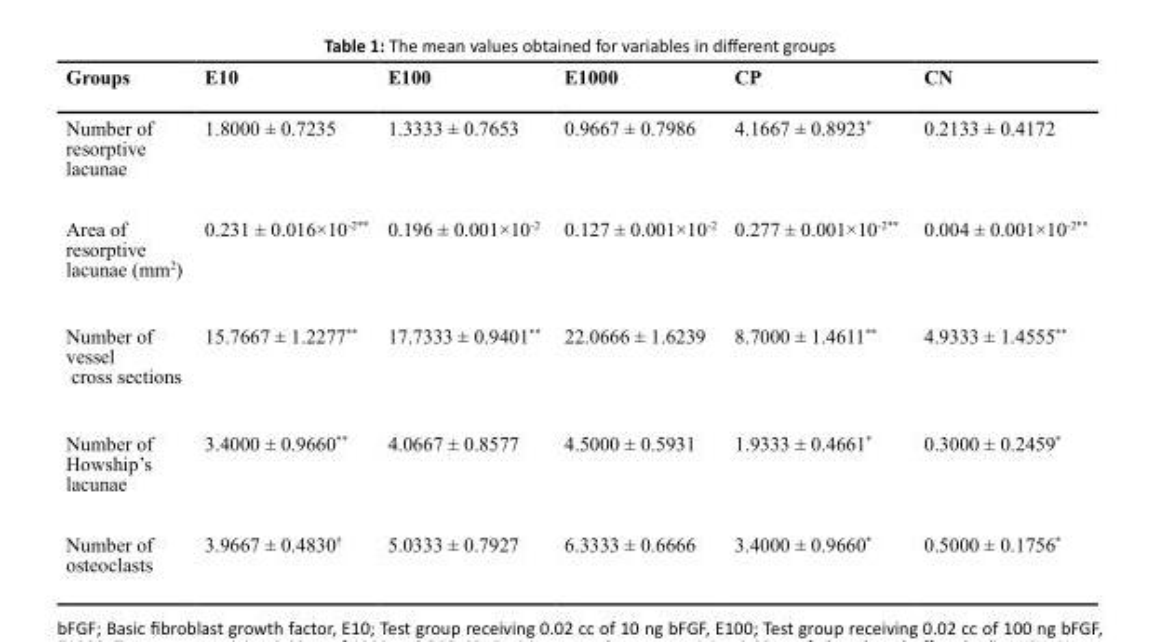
<table><thead><tr><td>Groups</td><td>E10</td><td>E100</td><td>E1000</td><td>CP</td><td>CN</td></tr></thead><tbody><tr><td>Number of resorptive lacunae</td><td>1.8000 ± 0.7235</td><td>1.3333 ± 0.7653</td><td>0.9667 ± 0.7986</td><td>4.1667 ± 0.8923*</td><td>0.2133 ± 0.4172</td></tr><tr><td>Area of resorptive lacunae (mm2)</td><td>0.231 ± 0.016×10<sup>-2**</sup></td><td>0.196 ± 0.001×10<sup>-2</sup></td><td>0.127 ± 0.001×10<sup>-2</sup></td><td>0.277 ± 0.001×10<sup>-2**</sup></td><td>0.004 ± 0.001×10<sup>-2**</sup></td></tr><tr><td>Number of vessel cross sections</td><td>15.7667 ± 1.2277**</td><td>17.7333 ± 0.9401**</td><td>22.0666 ± 1.6239</td><td>8.7000 ± 1.4611**</td><td>4.9333 ± 1.4555**</td></tr><tr><td>Number of Howship’s lacunae</td><td>3.4000 ± 0.9660**</td><td>4.0667 ± 0.8577</td><td>4.5000 ± 0.5931</td><td>1.9333 ± 0.4661*</td><td>0.3000 ± 0.2459*</td></tr><tr><td>Number of osteoclasts</td><td>3.9667 ± 0.4830<sup>†</sup></td><td>5.0333 ± 0.7927</td><td>6.3333 ± 0.6666</td><td>3.4000 ± 0.9660*</td><td>0.5000 ± 0.1756*</td></tr></tbody></table>